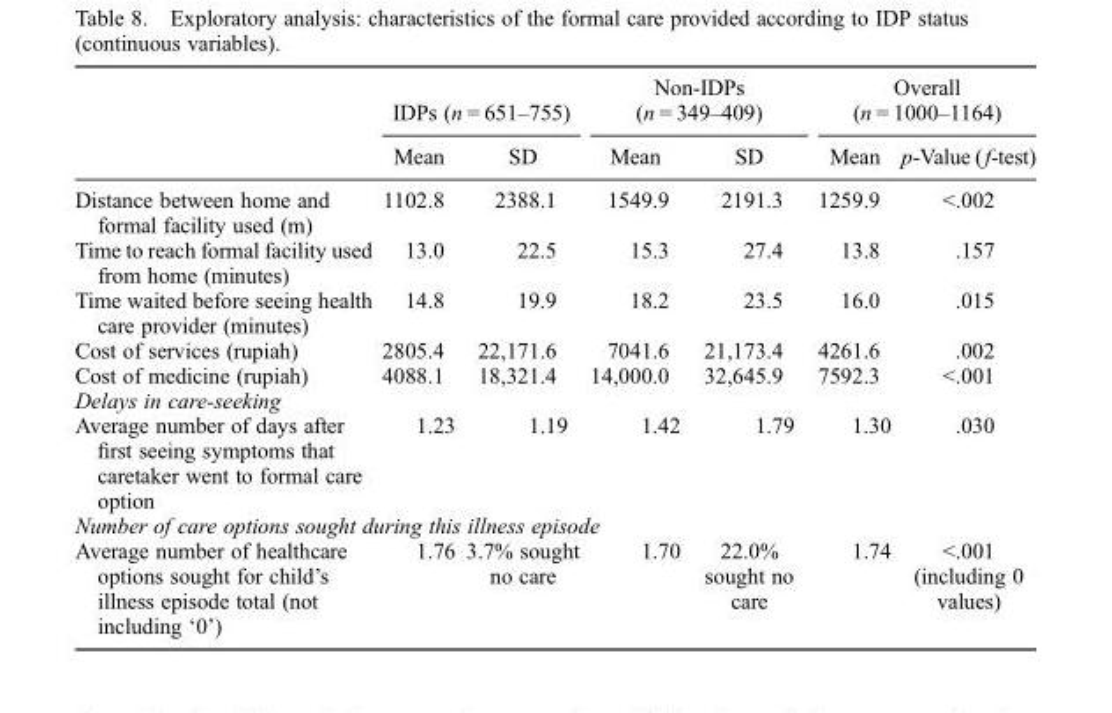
<table><thead><tr><td rowspan="2"></td><td colspan="2">IDPs (n = 651–755)</td><td colspan="2">Non-IDPs (n = 349–409)</td><td colspan="2">Overall (n = 1000–1164)</td></tr><tr><td>Mean</td><td>SD</td><td>Mean</td><td>SD</td><td>Mean</td><td>p-Value (f-test)</td></tr></thead><tbody><tr><td>Distance between home and formal facility used (m)</td><td>1102.8</td><td>2388.1</td><td>1549.9</td><td>2191.3</td><td>1259.9</td><td>&lt;.002</td></tr><tr><td>Time to reach formal facility used from home (minutes)</td><td>13.0</td><td>22.5</td><td>15.3</td><td>27.4</td><td>13.8</td><td>.157</td></tr><tr><td>Time waited before seeing health care provider (minutes)</td><td>14.8</td><td>19.9</td><td>18.2</td><td>23.5</td><td>16.0</td><td>.015</td></tr><tr><td>Cost of services (rupiah)</td><td>2805.4</td><td>22,171.6</td><td>7041.6</td><td>21,173.4</td><td>4261.6</td><td>.002</td></tr><tr><td>Cost of medicine (rupiah)</td><td>4088.1</td><td>18,321.4</td><td>14,000.0</td><td>32,645.9</td><td>7592.3</td><td>&lt;.001</td></tr><tr><td colspan="7">Delays in care-seeking</td></tr><tr><td>Average number of days after first seeing symptoms that caretaker went to formal care option</td><td>1.23</td><td>1.19</td><td>1.42</td><td>1.79</td><td>1.30</td><td>.030</td></tr><tr><td colspan="7">Number of care options sought during this illness episode</td></tr><tr><td>Average number of healthcare options sought for child’s illness episode total (not including ‘0’)</td><td>1.76</td><td>3.7% sought no care</td><td>1.70</td><td>22.0% sought no care</td><td>1.74</td><td>&lt;.001 (including 0 values)</td></tr></tbody></table>